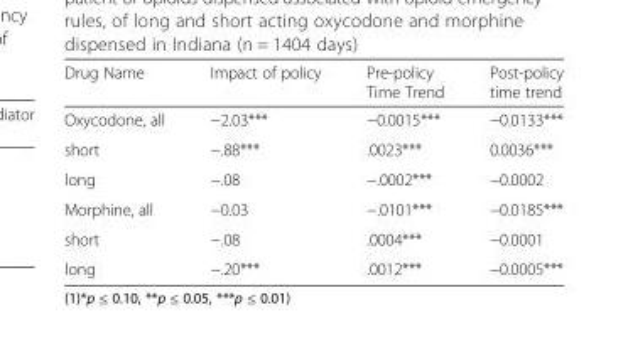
<table><thead><tr><td>Drug Name</td><td>Impact of policy</td><td>Pre-policy Time Trend</td><td>Post-policy time trend</td></tr></thead><tbody><tr><td>Oxycodone, all</td><td>−2.03***</td><td>−0.0015***</td><td>−0.0133***</td></tr><tr><td>short</td><td>−.88***</td><td>.0023***</td><td>0.0036***</td></tr><tr><td>long</td><td>−.08</td><td>−.0002***</td><td>−0.0002</td></tr><tr><td>Morphine, all</td><td>−0.03</td><td>−.0101***</td><td>−0.0185***</td></tr><tr><td>short</td><td>−.08</td><td>.0004***</td><td>−0.0001</td></tr><tr><td>long</td><td>−.20***</td><td>.0012***</td><td>−0.0005***</td></tr></tbody></table>